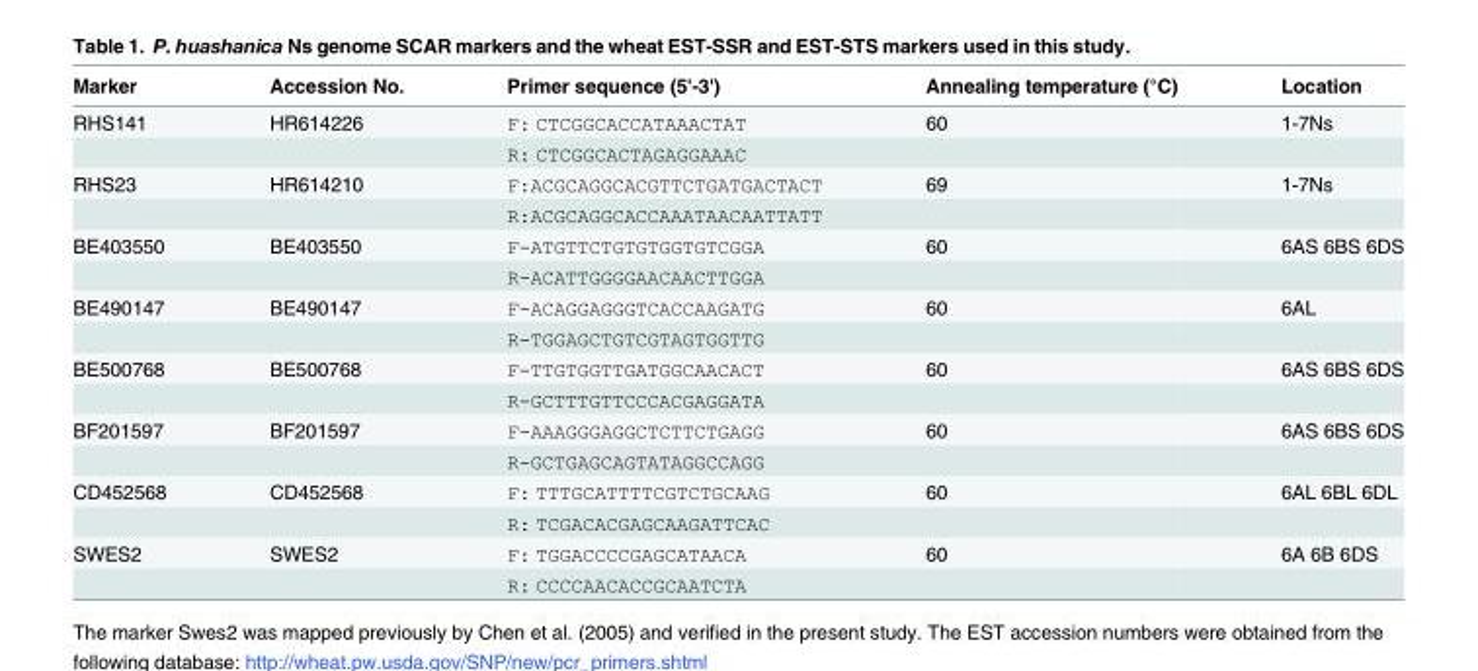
<table><thead><tr><td>Marker</td><td>Accession No.</td><td>Primer sequence (5&#x27;-3&#x27;)</td><td>Annealing temperature (°C)</td><td>Location</td></tr></thead><tbody><tr><td rowspan="2">RHS141</td><td>HR614226</td><td>F: CTCGGCACCATAAACTAT</td><td>60</td><td>1-7Ns</td></tr><tr><td></td><td>R: CTCGGCACTAGAGGAAAC</td><td></td><td></td></tr><tr><td rowspan="2">RHS23</td><td>HR614210</td><td>F:ACGCAGGCACGTTCTGATGACTACT</td><td>69</td><td>1-7Ns</td></tr><tr><td></td><td>R:ACGCAGGCACCAAATAACAATTATT</td><td></td><td></td></tr><tr><td rowspan="2">BE403550</td><td>BE403550</td><td>F-ATGTTCTGTGTGGTGTCGGA</td><td>60</td><td>6AS 6BS 6DS</td></tr><tr><td></td><td>R-ACATTGGGGAACAACTTGGA</td><td></td><td></td></tr><tr><td rowspan="2">BE490147</td><td>BE490147</td><td>F-ACAGGAGGGTCACCAAGATG</td><td>60</td><td>6AL</td></tr><tr><td></td><td>R-TGGAGCTGTCGTAGTGGTTG</td><td></td><td></td></tr><tr><td rowspan="2">BE500768</td><td>BE500768</td><td>F-TTGTGGTTGATGGCAACACT</td><td>60</td><td>6AS 6BS 6DS</td></tr><tr><td></td><td>R-GCTTTGTTCCCACGAGGATA</td><td></td><td></td></tr><tr><td rowspan="2">BF201597</td><td>BF201597</td><td>F-AAAGGGAGGCTCTTCTGAGG</td><td>60</td><td>6AS 6BS 6DS</td></tr><tr><td></td><td>R-GCTGAGCAGTATAGGCCAGG</td><td></td><td></td></tr><tr><td rowspan="2">CD452568</td><td>CD452568</td><td>F: TTTGCATTTTCGTCTGCAAG</td><td>60</td><td>6AL 6BL 6DL</td></tr><tr><td></td><td>R: TCGACACGAGCAAGATTCAC</td><td></td><td></td></tr><tr><td rowspan="2">SWES2</td><td>SWES2</td><td>F: TGGACCCCGAGCATAACA</td><td>60</td><td>6A 6B 6DS</td></tr><tr><td></td><td>R: CCCCAACACCGCAATCTA</td><td></td><td></td></tr></tbody></table>